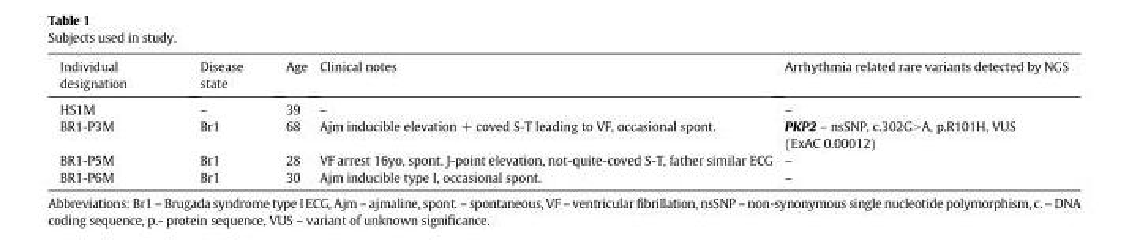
<table><thead><tr><td>Individual designation</td><td>Disease state</td><td>Age</td><td>Clinical notes</td><td>Arrhythmia related rare variants detected by NGS</td></tr></thead><tbody><tr><td>HS1M</td><td>–</td><td>39</td><td>–</td><td>–</td></tr><tr><td>BR1-P3M</td><td>Br1</td><td>68</td><td>Ajm inducible elevation + coved S-T leading to VF, occasional spont.</td><td>PKP2 – nsSNP, c.302G&gt;A, p.R101H, VUS (ExAC 0.00012)</td></tr><tr><td>BR1-P5M</td><td>Br1</td><td>28</td><td>VF arrest 16yo, spont. J-point elevation, not-quite-coved S-T, father similar ECG</td><td>–</td></tr><tr><td>BR1-P6M</td><td>Br1</td><td>30</td><td>Ajm inducible type I, occasional spont.</td><td>–</td></tr></tbody></table>